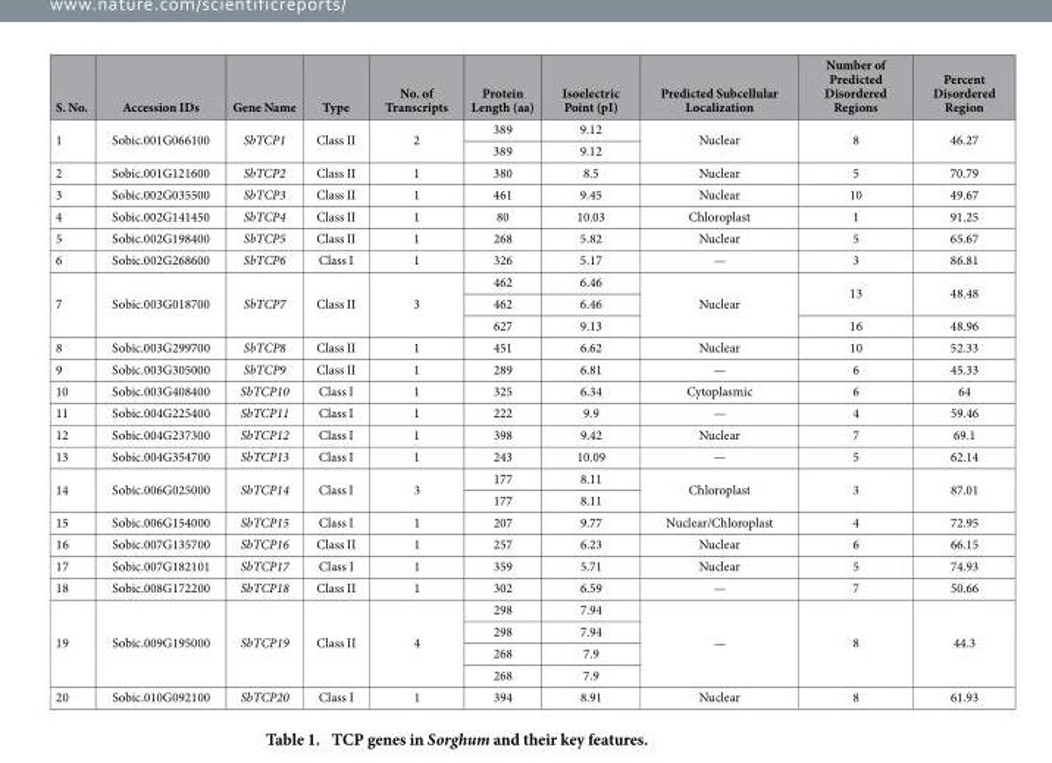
<table><thead><tr><td>S. No.</td><td>Accession IDs</td><td>Gene Name</td><td>Type</td><td>No. of Transcripts</td><td>Protein Length (aa)</td><td>Isoelectric Point (pI)</td><td>Predicted Subcellular Localization</td><td>Number of Predicted Disordered Regions</td><td>Percent Disordered Region</td></tr></thead><tbody><tr><td rowspan="2">1</td><td rowspan="2">Sobic.001G066100</td><td rowspan="2">SbTCP1</td><td rowspan="2">Class II</td><td rowspan="2">2</td><td>389</td><td>9.12</td><td rowspan="2">Nuclear</td><td rowspan="2">8</td><td rowspan="2">46.27</td></tr><tr><td>389</td><td>9.12</td></tr><tr><td>2</td><td>Sobic.001G121600</td><td>SbTCP2</td><td>Class II</td><td>1</td><td>380</td><td>8.5</td><td>Nuclear</td><td>5</td><td>70.79</td></tr><tr><td>3</td><td>Sobic.002G035500</td><td>SbTCP3</td><td>Class II</td><td>1</td><td>461</td><td>9.45</td><td>Nuclear</td><td>10</td><td>49.67</td></tr><tr><td>4</td><td>Sobic.002G141450</td><td>SbTCP4</td><td>Class II</td><td>1</td><td>80</td><td>10.03</td><td>Chloroplast</td><td>1</td><td>91.25</td></tr><tr><td>5</td><td>Sobic.002G198400</td><td>SbTCP5</td><td>Class II</td><td>1</td><td>268</td><td>5.82</td><td>Nuclear</td><td>5</td><td>65.67</td></tr><tr><td>6</td><td>Sobic.002G268600</td><td>SbTCP6</td><td>Class I</td><td>1</td><td>326</td><td>5.17</td><td>—</td><td>3</td><td>86.81</td></tr><tr><td rowspan="3">7</td><td rowspan="3">Sobic.003G018700</td><td rowspan="3">SbTCP7</td><td rowspan="3">Class II</td><td rowspan="3">3</td><td>462</td><td>6.46</td><td rowspan="3">Nuclear</td><td rowspan="2">13</td><td rowspan="2">48.48</td></tr><tr><td>462</td><td>6.46</td></tr><tr><td>627</td><td>9.13</td><td>16</td><td>48.96</td></tr><tr><td>8</td><td>Sobic.003G299700</td><td>SbTCP8</td><td>Class II</td><td>1</td><td>451</td><td>6.62</td><td>Nuclear</td><td>10</td><td>52.33</td></tr><tr><td>9</td><td>Sobic.003G305000</td><td>SbTCP9</td><td>Class II</td><td>1</td><td>289</td><td>6.81</td><td>—</td><td>6</td><td>45.33</td></tr><tr><td>10</td><td>Sobic.003G408400</td><td>SbTCP10</td><td>Class I</td><td>1</td><td>325</td><td>6.34</td><td>Cytoplasmic</td><td>6</td><td>64</td></tr><tr><td>11</td><td>Sobic.004G225400</td><td>SbTCP11</td><td>Class I</td><td>1</td><td>222</td><td>9.9</td><td>—</td><td>4</td><td>59.46</td></tr><tr><td>12</td><td>Sobic.004G237300</td><td>SbTCP12</td><td>Class I</td><td>1</td><td>398</td><td>9.42</td><td>Nuclear</td><td>7</td><td>69.1</td></tr><tr><td>13</td><td>Sobic.004G354700</td><td>SbTCP13</td><td>Class I</td><td>1</td><td>243</td><td>10.09</td><td>—</td><td>5</td><td>62.14</td></tr><tr><td rowspan="2">14</td><td rowspan="2">Sobic.006G025000</td><td rowspan="2">SbTCP14</td><td rowspan="2">Class I</td><td rowspan="2">3</td><td>177</td><td>8.11</td><td rowspan="2">Chloroplast</td><td rowspan="2">3</td><td rowspan="2">87.01</td></tr><tr><td>177</td><td>8.11</td></tr><tr><td>15</td><td>Sobic.006G154000</td><td>SbTCP15</td><td>Class I</td><td>1</td><td>207</td><td>9.77</td><td>Nuclear/Chloroplast</td><td>4</td><td>72.95</td></tr><tr><td>16</td><td>Sobic.007G135700</td><td>SbTCP16</td><td>Class II</td><td>1</td><td>257</td><td>6.23</td><td>Nuclear</td><td>6</td><td>66.15</td></tr><tr><td>17</td><td>Sobic.007G182101</td><td>SbTCP17</td><td>Class I</td><td>1</td><td>359</td><td>5.71</td><td>Nuclear</td><td>5</td><td>74.93</td></tr><tr><td>18</td><td>Sobic.008G172200</td><td>SbTCP18</td><td>Class II</td><td>1</td><td>302</td><td>6.59</td><td>—</td><td>7</td><td>50.66</td></tr><tr><td rowspan="4">19</td><td rowspan="4">Sobic.009G195000</td><td rowspan="4">SbTCP19</td><td rowspan="4">Class II</td><td rowspan="4">4</td><td>298</td><td>7.94</td><td rowspan="4">—</td><td rowspan="4">8</td><td rowspan="4">44.3</td></tr><tr><td>298</td><td>7.94</td></tr><tr><td>268</td><td>7.9</td></tr><tr><td>268</td><td>7.9</td></tr><tr><td>20</td><td>Sobic.010G092100</td><td>SbTCP20</td><td>Class I</td><td>1</td><td>394</td><td>8.91</td><td>Nuclear</td><td>8</td><td>61.93</td></tr></tbody></table>